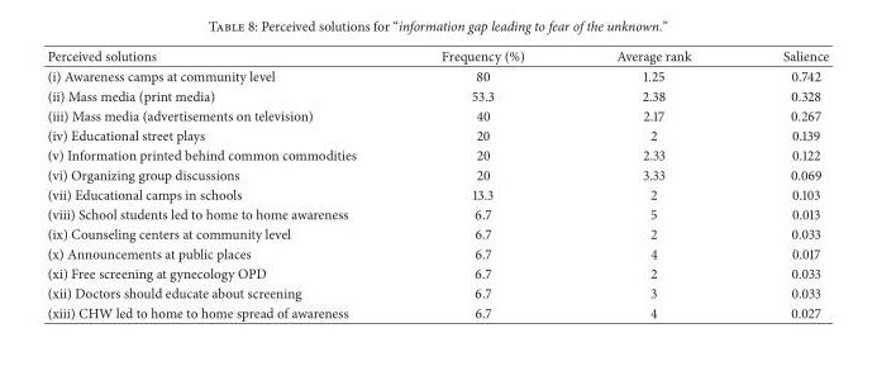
<table><thead><tr><td>Perceived solutions</td><td>Frequency (%)</td><td>Average rank</td><td>Salience</td></tr></thead><tbody><tr><td>(i) Awareness camps at community level</td><td>80</td><td>1.25</td><td>0.742</td></tr><tr><td>(ii) Mass media (print media)</td><td>53.3</td><td>2.38</td><td>0.328</td></tr><tr><td>(iii) Mass media (advertisements on television)</td><td>40</td><td>2.17</td><td>0.267</td></tr><tr><td>(iv) Educational street plays</td><td>20</td><td>2</td><td>0.139</td></tr><tr><td>(v) Information printed behind common commodities</td><td>20</td><td>2.33</td><td>0.122</td></tr><tr><td>(vi) Organizing group discussions</td><td>20</td><td>3.33</td><td>0.069</td></tr><tr><td>(vii) Educational camps in schools</td><td>13.3</td><td>2</td><td>0.103</td></tr><tr><td>(viii) School students led to home to home awareness</td><td>6.7</td><td>5</td><td>0.013</td></tr><tr><td>(ix) Counseling centers at community level</td><td>6.7</td><td>2</td><td>0.033</td></tr><tr><td>(x) Announcements at public places</td><td>6.7</td><td>4</td><td>0.017</td></tr><tr><td>(xi) Free screening at gynecology OPD</td><td>6.7</td><td>2</td><td>0.033</td></tr><tr><td>(xii) Doctors should educate about screening</td><td>6.7</td><td>3</td><td>0.033</td></tr><tr><td>(xiii) CHW led to home to home spread of awareness</td><td>6.7</td><td>4</td><td>0.027</td></tr></tbody></table>